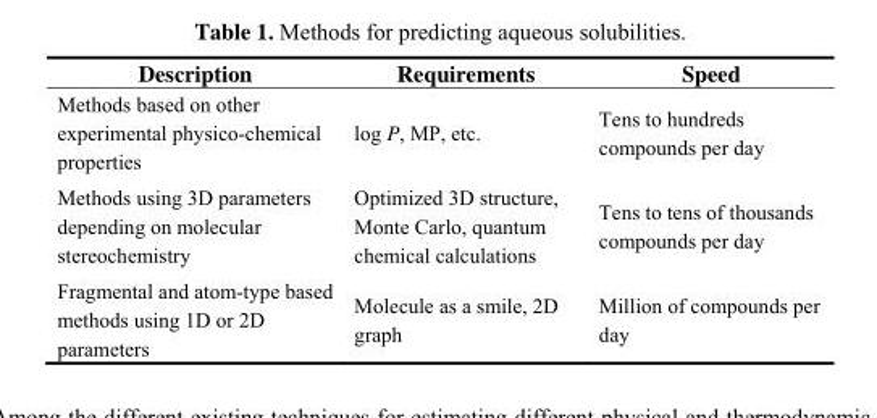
<table><thead><tr><td>Description</td><td>Requirements</td><td>Speed</td></tr></thead><tbody><tr><td>Methods based on other experimental physico-chemical properties</td><td>log P, MP, etc.</td><td>Tens to hundreds compounds per day</td></tr><tr><td>Methods using 3D parameters depending on molecular stereochemistry</td><td>Optimized 3D structure, Monte Carlo, quantum chemical calculations</td><td>Tens to tens of thousands compounds per day</td></tr><tr><td>Fragmental and atom-type based methods using 1D or 2D parameters</td><td>Molecule as a smile, 2D graph</td><td>Million of compounds per day</td></tr></tbody></table>